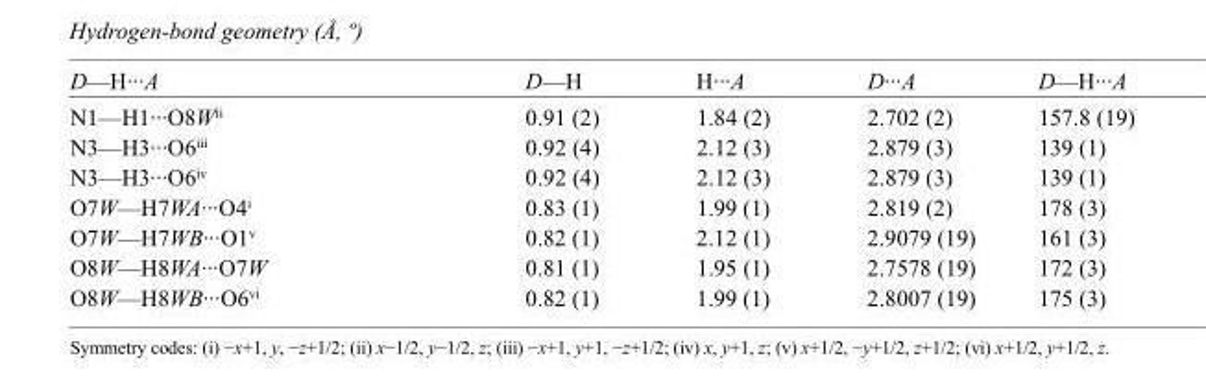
<table><tbody><tr><td>D—H···A</td><td>D—H</td><td>H···A</td><td>D···A</td><td>D—H···A</td></tr><tr><td>N1—H1···O8W<sup>ii</sup></td><td>0.91 (2)</td><td>1.84 (2)</td><td>2.702 (2)</td><td>157.8 (19)</td></tr><tr><td>N3—H3···O6<sup>iii</sup></td><td>0.92 (4)</td><td>2.12 (3)</td><td>2.879 (3)</td><td>139 (1)</td></tr><tr><td>N3—H3···O6<sup>iv</sup></td><td>0.92 (4)</td><td>2.12 (3)</td><td>2.879 (3)</td><td>139 (1)</td></tr><tr><td>O7W—H7WA···O4<sup>i</sup></td><td>0.83 (1)</td><td>1.99 (1)</td><td>2.819 (2)</td><td>178 (3)</td></tr><tr><td>O7W—H7WB···O1<sup>v</sup></td><td>0.82 (1)</td><td>2.12 (1)</td><td>2.9079 (19)</td><td>161 (3)</td></tr><tr><td>O8W—H8WA···O7W</td><td>0.81 (1)</td><td>1.95 (1)</td><td>2.7578 (19)</td><td>172 (3)</td></tr><tr><td>O8W—H8WB···O6<sup>vi</sup></td><td>0.82 (1)</td><td>1.99 (1)</td><td>2.8007 (19)</td><td>175 (3)</td></tr></tbody></table>